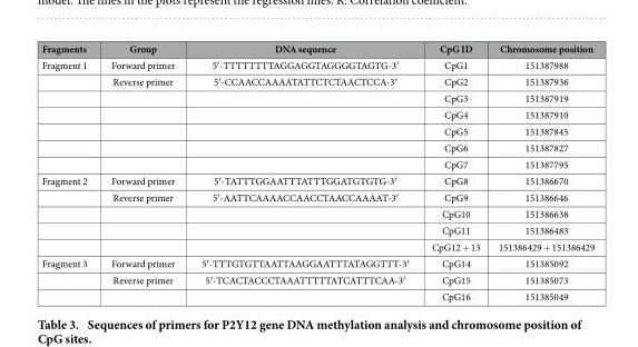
<table><thead><tr><td>Fragments</td><td>Group</td><td>DNA sequence</td><td>CpG ID</td><td>Chromosome position</td></tr></thead><tbody><tr><td rowspan="7">Fragment 1</td><td>Forward primer</td><td>5′ -TTTTTTTTAGGAGGTAGGGGTAGTG-3′</td><td>CpG1</td><td>151387988</td></tr><tr><td>Reverse primer</td><td>5′ -CCAACCAAAATATTCTCTAACTCCA-3′</td><td>CpG2</td><td>151387936</td></tr><tr><td></td><td></td><td>CpG3</td><td>151387919</td></tr><tr><td></td><td></td><td>CpG4</td><td>151387910</td></tr><tr><td></td><td></td><td>CpG5</td><td>151387845</td></tr><tr><td></td><td></td><td>CpG6</td><td>151387827</td></tr><tr><td></td><td></td><td>CpG7</td><td>151387795</td></tr><tr><td rowspan="5">Fragment 2</td><td>Forward primer</td><td>5′ -TATTTGGAATTTATTTGGATGTGTG-3′</td><td>CpG8</td><td>151386670</td></tr><tr><td>Reverse primer</td><td>5′ -AATTCAAAACCAACCTAACCAAAAT-3′</td><td>CpG9</td><td>151386646</td></tr><tr><td></td><td></td><td>CpG10</td><td>151386638</td></tr><tr><td></td><td></td><td>CpG11</td><td>151386483</td></tr><tr><td></td><td></td><td>CpG12 + 13</td><td>151386429 + 151386429</td></tr><tr><td rowspan="3">Fragment 3</td><td>Forward primer</td><td>5′ -TTTGTGTTAATTAAGGAATTTATAGGTTT-3′</td><td>CpG14</td><td>151385092</td></tr><tr><td>Reverse primer</td><td>5′ -TCACTACCCTAAATTTTTATCATTTCAA-3′</td><td>CpG15</td><td>151385073</td></tr><tr><td></td><td></td><td>CpG16</td><td>151385049</td></tr></tbody></table>